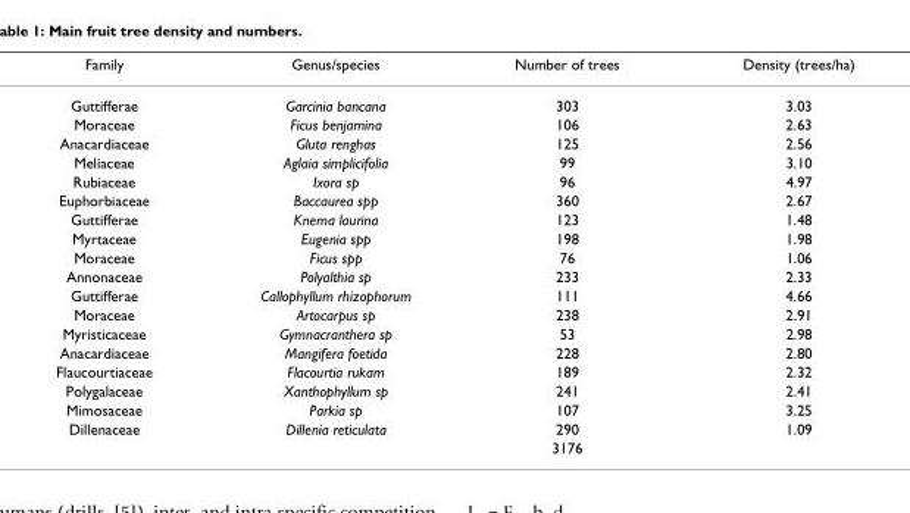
<table><thead><tr><td>Family</td><td>Genus/species</td><td>Number of trees</td><td>Density (trees/ha)</td></tr></thead><tbody><tr><td>Guttifferae</td><td>Garcinia bancana</td><td>303</td><td>3.03</td></tr><tr><td>Moraceae</td><td>Ficus benjamina</td><td>106</td><td>2.63</td></tr><tr><td>Anacardiaceae</td><td>Gluta renghas</td><td>125</td><td>2.56</td></tr><tr><td>Meliaceae</td><td>Aglaia simplicifolia</td><td>99</td><td>3.10</td></tr><tr><td>Rubiaceae</td><td>Ixora sp</td><td>96</td><td>4.97</td></tr><tr><td>Euphorbiaceae</td><td>Baccaurea spp</td><td>360</td><td>2.67</td></tr><tr><td>Guttifferae</td><td>Knema laurina</td><td>123</td><td>1.48</td></tr><tr><td>Myrtaceae</td><td>Eugenia spp</td><td>198</td><td>1.98</td></tr><tr><td>Moraceae</td><td>Ficus spp</td><td>76</td><td>1.06</td></tr><tr><td>Annonaceae</td><td>Polyalthia sp</td><td>233</td><td>2.33</td></tr><tr><td>Guttifferae</td><td>Callophyllum rhizophorum</td><td>111</td><td>4.66</td></tr><tr><td>Moraceae</td><td>Artocarpus sp</td><td>238</td><td>2.91</td></tr><tr><td>Myristicaceae</td><td>Gymnacranthera sp</td><td>53</td><td>2.98</td></tr><tr><td>Anacardiaceae</td><td>Mangifera foetida</td><td>228</td><td>2.80</td></tr><tr><td>Flaucourtiaceae</td><td>Flacourtia rukam</td><td>189</td><td>2.32</td></tr><tr><td>Polygalaceae</td><td>Xanthophyllum sp</td><td>241</td><td>2.41</td></tr><tr><td>Mimosaceae</td><td>Parkia sp</td><td>107</td><td>3.25</td></tr><tr><td rowspan="2">Dillenaceae</td><td>Dillenia reticulata</td><td>290</td><td>1.09</td></tr><tr><td></td><td>3176</td><td></td></tr></tbody></table>